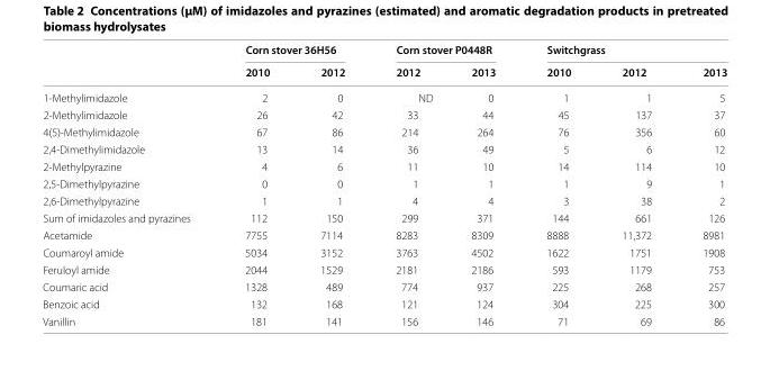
<table><thead><tr><td rowspan="2"></td><td colspan="2">Corn stover 36H56</td><td colspan="2">Corn stover P0448R</td><td colspan="3">Switchgrass</td></tr><tr><td>2010</td><td>2012</td><td>2012</td><td>2013</td><td>2010</td><td>2012</td><td>2013</td></tr></thead><tbody><tr><td>1-Methylimidazole</td><td>2</td><td>0</td><td>ND</td><td>0</td><td>1</td><td>1</td><td>5</td></tr><tr><td>2-Methylimidazole</td><td>26</td><td>42</td><td>33</td><td>44</td><td>45</td><td>137</td><td>37</td></tr><tr><td>4(5)-Methylimidazole</td><td>67</td><td>86</td><td>214</td><td>264</td><td>76</td><td>356</td><td>60</td></tr><tr><td>2,4-Dimethylimidazole</td><td>13</td><td>14</td><td>36</td><td>49</td><td>5</td><td>6</td><td>12</td></tr><tr><td>2-Methylpyrazine</td><td>4</td><td>6</td><td>11</td><td>10</td><td>14</td><td>114</td><td>10</td></tr><tr><td>2,5-Dimethylpyrazine</td><td>0</td><td>0</td><td>1</td><td>1</td><td>1</td><td>9</td><td>1</td></tr><tr><td>2,6-Dimethylpyrazine</td><td>1</td><td>1</td><td>4</td><td>4</td><td>3</td><td>38</td><td>2</td></tr><tr><td>Sum of imidazoles and pyrazines</td><td>112</td><td>150</td><td>299</td><td>371</td><td>144</td><td>661</td><td>126</td></tr><tr><td>Acetamide</td><td>7755</td><td>7114</td><td>8283</td><td>8309</td><td>8888</td><td>11,372</td><td>8981</td></tr><tr><td>Coumaroyl amide</td><td>5034</td><td>3152</td><td>3763</td><td>4502</td><td>1622</td><td>1751</td><td>1908</td></tr><tr><td>Feruloyl amide</td><td>2044</td><td>1529</td><td>2181</td><td>2186</td><td>593</td><td>1179</td><td>753</td></tr><tr><td>Coumaric acid</td><td>1328</td><td>489</td><td>774</td><td>937</td><td>225</td><td>268</td><td>257</td></tr><tr><td>Benzoic acid</td><td>132</td><td>168</td><td>121</td><td>124</td><td>304</td><td>225</td><td>300</td></tr><tr><td>Vanillin</td><td>181</td><td>141</td><td>156</td><td>146</td><td>71</td><td>69</td><td>86</td></tr></tbody></table>